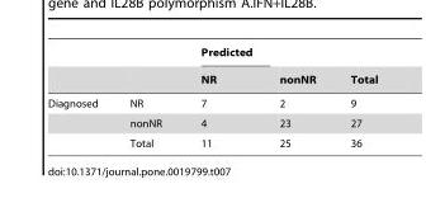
<table><thead><tr><td rowspan="2"></td><td rowspan="2"></td><td rowspan="2">Predicted NR</td><td rowspan="2">nonNR</td><td rowspan="2">Total</td></tr><tr></tr></thead><tbody><tr><td rowspan="3">Diagnosed</td><td>NR</td><td>7</td><td>2</td><td>9</td></tr><tr><td>nonNR</td><td>4</td><td>23</td><td>27</td></tr><tr><td>Total</td><td>11</td><td>25</td><td>36</td></tr></tbody></table>